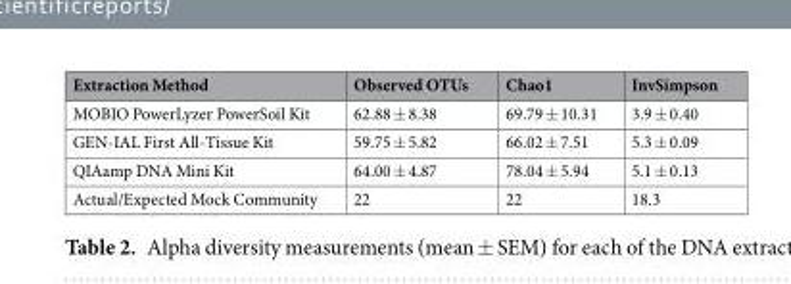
<table><thead><tr><td>Extraction Method</td><td>Observed OTUs</td><td>Chao1</td><td>InvSimpson</td></tr></thead><tbody><tr><td>MOBIO PowerLyzer PowerSoil Kit</td><td>62.88 ± 8.38</td><td>69.79 ± 10.31</td><td>3.9 ± 0.40</td></tr><tr><td>GEN-IAL First All-Tissue Kit</td><td>59.75 ± 5.82</td><td>66.02 ± 7.51</td><td>5.3 ± 0.09</td></tr><tr><td>QIAamp DNA Mini Kit</td><td>64.00 ± 4.87</td><td>78.04 ± 5.94</td><td>5.1 ± 0.13</td></tr><tr><td>Actual/Expected Mock Community</td><td>22</td><td>22</td><td>18.3</td></tr></tbody></table>